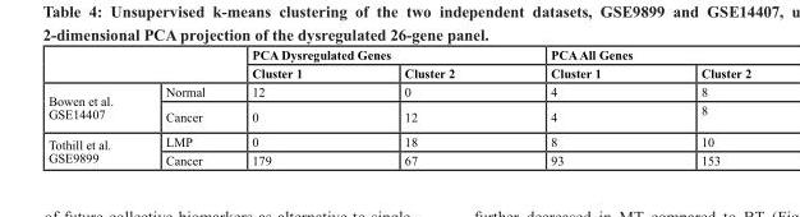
<table><thead><tr><td rowspan="2"></td><td rowspan="2"></td><td colspan="2">PCA Dysregulated Genes</td><td colspan="2">PCA All Genes</td></tr><tr><td>Cluster 1</td><td>Cluster 2</td><td>Cluster 1</td><td>Cluster 2</td></tr></thead><tbody><tr><td rowspan="2">Bowen et al. GSE14407</td><td>Normal</td><td>12</td><td>0</td><td>4</td><td>8</td></tr><tr><td>Cancer</td><td>0</td><td>12</td><td>4</td><td>8</td></tr><tr><td rowspan="2">Tothill et al. GSE9899</td><td>LMP</td><td>0</td><td>18</td><td>8</td><td>10</td></tr><tr><td>Cancer</td><td>179</td><td>67</td><td>93</td><td>153</td></tr></tbody></table>